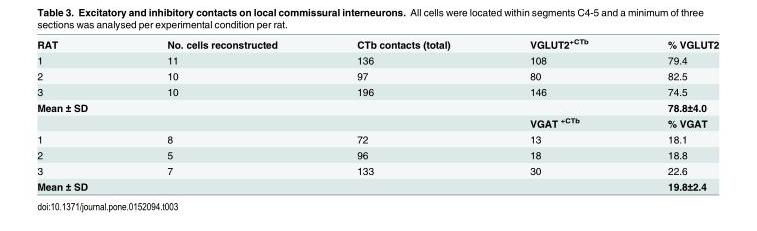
<table><tbody><tr><td>RAT</td><td>No. cells reconstructed</td><td>CTb contacts (total)</td><td>VGLUT2<sup>+CTb</sup></td><td>% VGLUT2</td></tr><tr><td>1</td><td>11</td><td>136</td><td>108</td><td>79.4</td></tr><tr><td>2</td><td>10</td><td>97</td><td>80</td><td>82.5</td></tr><tr><td>3</td><td>10</td><td>196</td><td>146</td><td>74.5</td></tr><tr><td>Mean ± SD</td><td></td><td></td><td></td><td>78.8±4.0</td></tr><tr><td colspan="3"></td><td>VGAT <sup>+CTb</sup></td><td>% VGAT</td></tr><tr><td>1</td><td>8</td><td>72</td><td>13</td><td>18.1</td></tr><tr><td>2</td><td>5</td><td>96</td><td>18</td><td>18.8</td></tr><tr><td>3</td><td>7</td><td>133</td><td>30</td><td>22.6</td></tr><tr><td>Mean ± SD</td><td></td><td></td><td></td><td>19.8±2.4</td></tr></tbody></table>